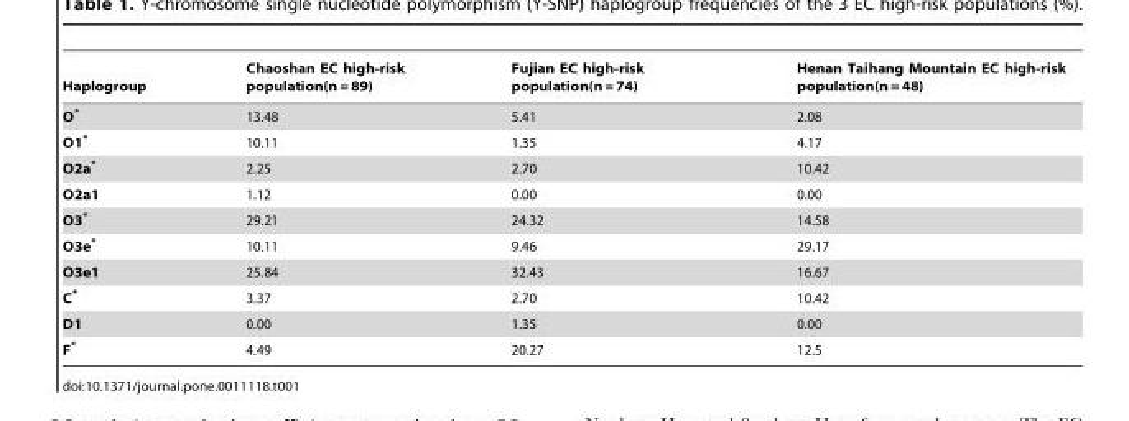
<table><thead><tr><td>Haplogroup</td><td>Chaoshan EC high-risk population(n = 89)</td><td>Fujian EC high-risk population(n = 74)</td><td>Henan Taihang Mountain EC high-risk population(n = 48)</td></tr></thead><tbody><tr><td>O*</td><td>13.48</td><td>5.41</td><td>2.08</td></tr><tr><td>O1*</td><td>10.11</td><td>1.35</td><td>4.17</td></tr><tr><td>O2a*</td><td>2.25</td><td>2.70</td><td>10.42</td></tr><tr><td>O2a1</td><td>1.12</td><td>0.00</td><td>0.00</td></tr><tr><td>O3*</td><td>29.21</td><td>24.32</td><td>14.58</td></tr><tr><td>O3e*</td><td>10.11</td><td>9.46</td><td>29.17</td></tr><tr><td>O3e1</td><td>25.84</td><td>32.43</td><td>16.67</td></tr><tr><td>C*</td><td>3.37</td><td>2.70</td><td>10.42</td></tr><tr><td>D1</td><td>0.00</td><td>1.35</td><td>0.00</td></tr><tr><td>F*</td><td>4.49</td><td>20.27</td><td>12.5</td></tr></tbody></table>